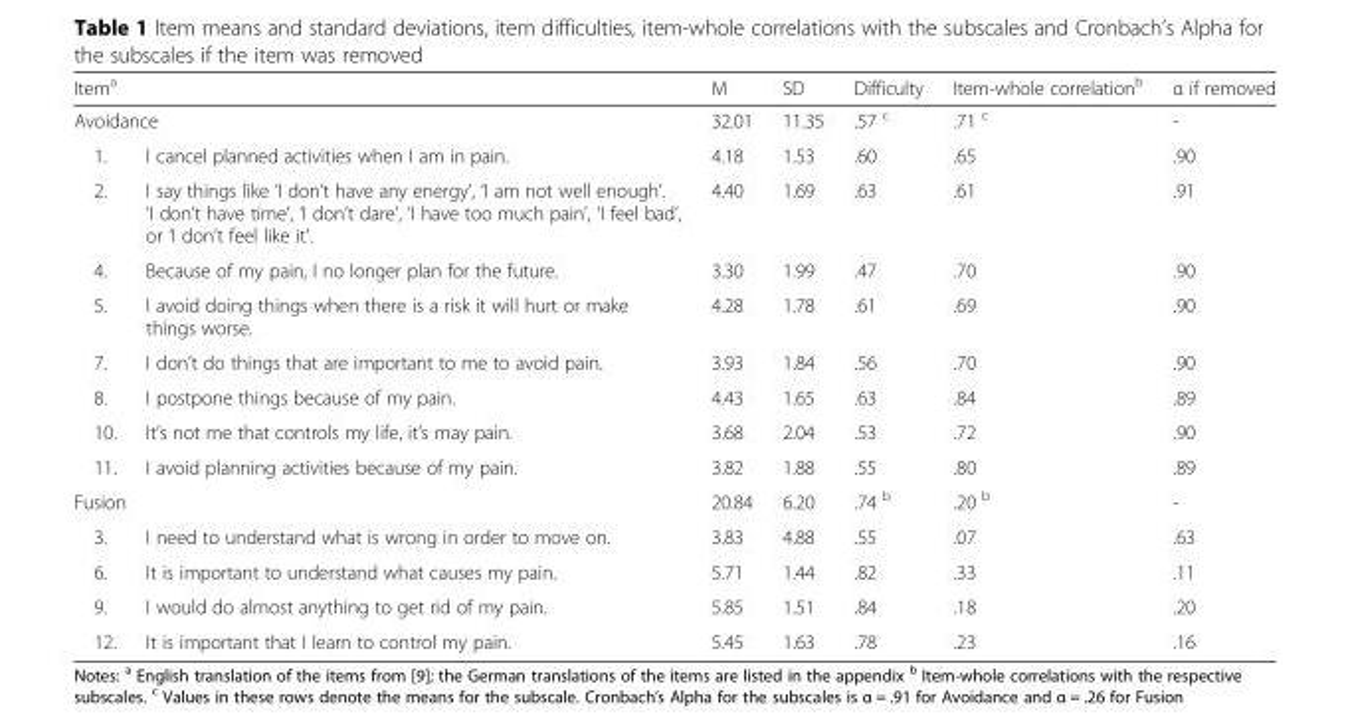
<table><thead><tr><td rowspan="2" colspan="2">Item<sup>a</sup> Avoidance</td><td rowspan="3">M 32.01 4.18</td><td rowspan="3">SD 11.35 1.53</td><td rowspan="3">Difficulty .57 <sup>c</sup> .60</td><td rowspan="3">Item-whole correlation<sup>b</sup> .71 <sup>c</sup> .65</td><td rowspan="3">α if removed - .90</td></tr><tr></tr><tr><td>1.</td><td>I cancel planned activities when I am in pain.</td></tr></thead><tbody><tr><td>2.</td><td>I say things like ‘I don’t have any energy’, ‘I am not well enough’. ‘I don’t have time’, ‘I don’t dare’, ‘I have too much pain’, ‘I feel bad’, or ‘I don’t feel like it’.</td><td>4.40</td><td>1.69</td><td>.63</td><td>.61</td><td>.91</td></tr><tr><td>4.</td><td>Because of my pain, I no longer plan for the future.</td><td>3.30</td><td>1.99</td><td>.47</td><td>.70</td><td>.90</td></tr><tr><td>5.</td><td>I avoid doing things when there is a risk it will hurt or make things worse.</td><td>4.28</td><td>1.78</td><td>.61</td><td>.69</td><td>.90</td></tr><tr><td>7.</td><td>I don’t do things that are important to me to avoid pain.</td><td>3.93</td><td>1.84</td><td>.56</td><td>.70</td><td>.90</td></tr><tr><td>8.</td><td>I postpone things because of my pain.</td><td>4.43</td><td>1.65</td><td>.63</td><td>.84</td><td>.89</td></tr><tr><td>10.</td><td>It’s not me that controls my life, it’s may pain.</td><td>3.68</td><td>2.04</td><td>.53</td><td>.72</td><td>.90</td></tr><tr><td>11.</td><td>I avoid planning activities because of my pain.</td><td>3.82</td><td>1.88</td><td>.55</td><td>.80</td><td>.89</td></tr><tr><td colspan="2">Fusion</td><td>20.84</td><td>6.20</td><td>.74 <sup>b</sup></td><td>.20 <sup>b</sup></td><td>-</td></tr><tr><td>3.</td><td>I need to understand what is wrong in order to move on.</td><td>3.83</td><td>4.88</td><td>.55</td><td>.07</td><td>.63</td></tr><tr><td>6.</td><td>It is important to understand what causes my pain.</td><td>5.71</td><td>1.44</td><td>.82</td><td>.33</td><td>.11</td></tr><tr><td>9.</td><td>I would do almost anything to get rid of my pain.</td><td>5.85</td><td>1.51</td><td>.84</td><td>.18</td><td>.20</td></tr><tr><td>12.</td><td>It is important that I learn to control my pain.</td><td>5.45</td><td>1.63</td><td>.78</td><td>.23</td><td>.16</td></tr></tbody></table>